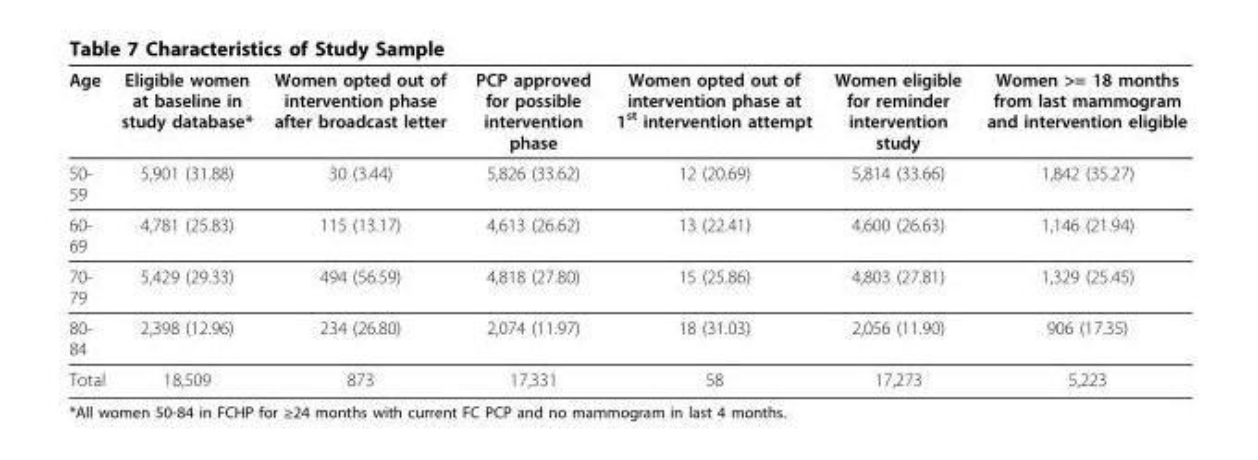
<table><thead><tr><td>Age</td><td>Eligible women at baseline in study database*</td><td>Women opted out of intervention phase after broadcast letter</td><td>PCP approved for possible intervention phase</td><td>Women opted out of intervention phase at 1<sup>st</sup> intervention attempt</td><td>Women eligible for reminder intervention study</td><td>Women &gt;= 18 months from last mammogram and intervention eligible</td></tr></thead><tbody><tr><td>50- 59</td><td>5,901 (31.88)</td><td>30 (3.44)</td><td>5,826 (33.62)</td><td>12 (20.69)</td><td>5,814 (33.66)</td><td>1,842 (35.27)</td></tr><tr><td>60- 69</td><td>4,781 (25.83)</td><td>115 (13.17)</td><td>4,613 (26.62)</td><td>13 (22.41)</td><td>4,600 (26.63)</td><td>1,146 (21.94)</td></tr><tr><td>70- 79</td><td>5,429 (29.33)</td><td>494 (56.59)</td><td>4,818 (27.80)</td><td>15 (25.86)</td><td>4,803 (27.81)</td><td>1,329 (25.45)</td></tr><tr><td>80- 84</td><td>2,398 (12.96)</td><td>234 (26.80)</td><td>2,074 (11.97)</td><td>18 (31.03)</td><td>2,056 (11.90)</td><td>906 (17.35)</td></tr><tr><td>Total</td><td>18,509</td><td>873</td><td>17,331</td><td>58</td><td>17,273</td><td>5,223</td></tr></tbody></table>